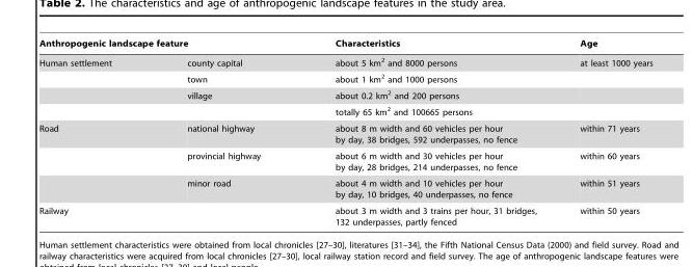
<table><thead><tr><td colspan="2">Anthropogenic landscape feature</td><td rowspan="2">Characteristics about 5 km<sup>2</sup> and 8000 persons</td><td rowspan="2">Age at least 1000 years</td></tr><tr><td>Human settlement</td><td>county capital</td></tr></thead><tbody><tr><td></td><td>town</td><td>about 1 km<sup>2</sup> and 1000 persons</td><td></td></tr><tr><td></td><td>village</td><td>about 0.2 km<sup>2</sup> and 200 persons</td><td></td></tr><tr><td></td><td></td><td>totally 65 km<sup>2</sup> and 100665 persons</td><td></td></tr><tr><td rowspan="3">Road</td><td>national highway</td><td>about 8 m width and 60 vehicles per hour by day, 38 bridges, 592 underpasses, no fence</td><td>within 71 years</td></tr><tr><td>provincial highway</td><td>about 6 m width and 30 vehicles per hour by day, 28 bridges, 214 underpasses, no fence</td><td>within 60 years</td></tr><tr><td>minor road</td><td>about 4 m width and 10 vehicles per hour by day, 10 bridges, 40 underpasses, no fence</td><td>within 51 years</td></tr><tr><td>Railway</td><td></td><td>about 3 m width and 3 trains per hour, 31 bridges, 132 underpasses, partly fenced</td><td>within 50 years</td></tr></tbody></table>